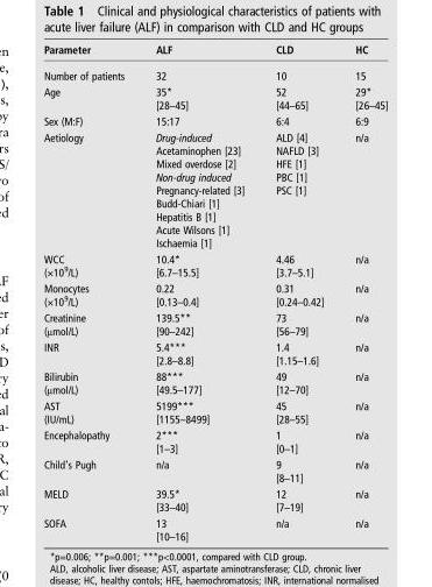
<table><thead><tr><td>Parameter</td><td>ALF</td><td>CLD</td><td>HC</td></tr></thead><tbody><tr><td>Number of patients</td><td>32</td><td>10</td><td>15</td></tr><tr><td>Age</td><td>35* [28–45]</td><td>52 [44–65]</td><td>29* [26–45]</td></tr><tr><td>Sex (M:F)</td><td>15:17</td><td>6:4</td><td>6:9</td></tr><tr><td>Aetiology</td><td>Drug-induced Acetaminophen [23] Mixed overdose [2] Non-drug induced Pregnancy-related [3] Budd-Chiari [1] Hepatitis B [1] Acute Wilsons [1] Ischaemia [1]</td><td>ALD [4] NAFLD [3] HFE [1] PBC [1] PSC [1]</td><td>n/a</td></tr><tr><td>WCC (×10<sup>9</sup>/L)</td><td>10.4* [6.7–15.5]</td><td>4.46 [3.7–5.1]</td><td>n/a</td></tr><tr><td>Monocytes (×10<sup>9</sup>/L)</td><td>0.22 [0.13–0.4]</td><td>0.31 [0.24–0.42]</td><td>n/a</td></tr><tr><td>Creatinine (μmol/L)</td><td>139.5** [90–242]</td><td>73 [56–79]</td><td>n/a</td></tr><tr><td>INR</td><td>5.4*** [2.8–8.8]</td><td>1.4 [1.15–1.6]</td><td>n/a</td></tr><tr><td>Bilirubin (μmol/L)</td><td>88*** [49.5–177]</td><td>49 [12–70]</td><td>n/a</td></tr><tr><td>AST (IU/mL)</td><td>5199*** [1155–8499]</td><td>45 [28–55]</td><td>n/a</td></tr><tr><td>Encephalopathy</td><td>2*** [1–3]</td><td>1 [0–1]</td><td>n/a</td></tr><tr><td>Child’s Pugh</td><td>n/a</td><td>9 [8–11]</td><td>n/a</td></tr><tr><td>MELD</td><td>39.5* [33–40]</td><td>12 [7–19]</td><td>n/a</td></tr><tr><td>SOFA</td><td>13 [10–16]</td><td>n/a</td><td>n/a</td></tr></tbody></table>